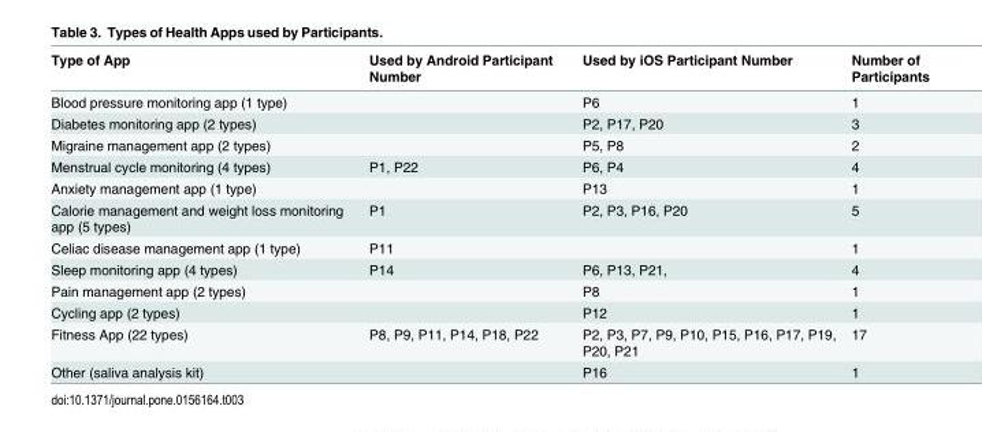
<table><thead><tr><td>Type of App</td><td>Used by Android Participant Number</td><td>Used by iOS Participant Number</td><td>Number of Participants</td></tr></thead><tbody><tr><td>Blood pressure monitoring app (1 type)</td><td></td><td>P6</td><td>1</td></tr><tr><td>Diabetes monitoring app (2 types)</td><td></td><td>P2, P17, P20</td><td>3</td></tr><tr><td>Migraine management app (2 types)</td><td></td><td>P5, P8</td><td>2</td></tr><tr><td>Menstrual cycle monitoring (4 types)</td><td>P1, P22</td><td>P6, P4</td><td>4</td></tr><tr><td>Anxiety management app (1 type)</td><td></td><td>P13</td><td>1</td></tr><tr><td>Calorie management and weight loss monitoring app (5 types)</td><td>P1</td><td>P2, P3, P16, P20</td><td>5</td></tr><tr><td>Celiac disease management app (1 type)</td><td>P11</td><td></td><td>1</td></tr><tr><td>Sleep monitoring app (4 types)</td><td>P14</td><td>P6, P13, P21,</td><td>4</td></tr><tr><td>Pain management app (2 types)</td><td></td><td>P8</td><td>1</td></tr><tr><td>Cycling app (2 types)</td><td></td><td>P12</td><td>1</td></tr><tr><td>Fitness App (22 types)</td><td>P8, P9, P11, P14, P18, P22</td><td>P2, P3, P7, P9, P10, P15, P16, P17, P19, P20, P21</td><td>17</td></tr><tr><td>Other (saliva analysis kit)</td><td></td><td>P16</td><td>1</td></tr></tbody></table>